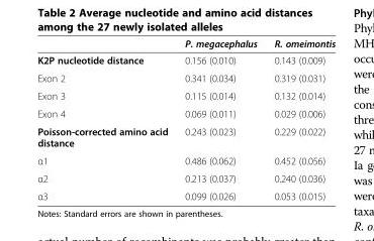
<table><thead><tr><td></td><td>P. megacephalus</td><td>R. omeimontis</td></tr></thead><tbody><tr><td>K2P nucleotide distance</td><td>0.156 (0.010)</td><td>0.143 (0.009)</td></tr><tr><td>Exon 2</td><td>0.341 (0.034)</td><td>0.319 (0.031)</td></tr><tr><td>Exon 3</td><td>0.115 (0.014)</td><td>0.132 (0.014)</td></tr><tr><td>Exon 4</td><td>0.069 (0.011)</td><td>0.029 (0.006)</td></tr><tr><td>Poisson-corrected amino acid distance</td><td>0.243 (0.023)</td><td>0.229 (0.022)</td></tr><tr><td>α1</td><td>0.486 (0.062)</td><td>0.452 (0.056)</td></tr><tr><td>α2</td><td>0.213 (0.037)</td><td>0.240 (0.036)</td></tr><tr><td>α3</td><td>0.099 (0.026)</td><td>0.053 (0.015)</td></tr></tbody></table>